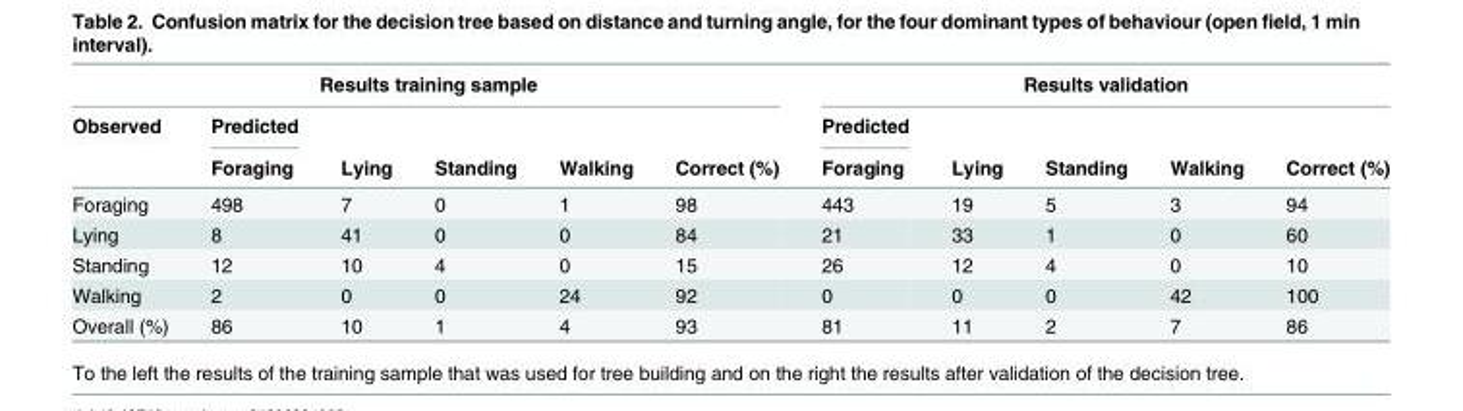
<table><thead><tr><td colspan="6">Results training sample</td><td colspan="5">Results validation</td></tr><tr><td rowspan="2">Observed</td><td rowspan="2">Predicted Foraging</td><td rowspan="2">Lying</td><td rowspan="2">Standing</td><td rowspan="2">Walking</td><td rowspan="2">Correct (%)</td><td rowspan="2">Predicted Foraging</td><td rowspan="2">Lying</td><td rowspan="2">Standing</td><td rowspan="2">Walking</td><td rowspan="2">Correct (%)</td></tr><tr></tr></thead><tbody><tr><td>Foraging</td><td>498</td><td>7</td><td>0</td><td>1</td><td>98</td><td>443</td><td>19</td><td>5</td><td>3</td><td>94</td></tr><tr><td>Lying</td><td>8</td><td>41</td><td>0</td><td>0</td><td>84</td><td>21</td><td>33</td><td>1</td><td>0</td><td>60</td></tr><tr><td>Standing</td><td>12</td><td>10</td><td>4</td><td>0</td><td>15</td><td>26</td><td>12</td><td>4</td><td>0</td><td>10</td></tr><tr><td>Walking</td><td>2</td><td>0</td><td>0</td><td>24</td><td>92</td><td>0</td><td>0</td><td>0</td><td>42</td><td>100</td></tr><tr><td>Overall (%)</td><td>86</td><td>10</td><td>1</td><td>4</td><td>93</td><td>81</td><td>11</td><td>2</td><td>7</td><td>86</td></tr></tbody></table>